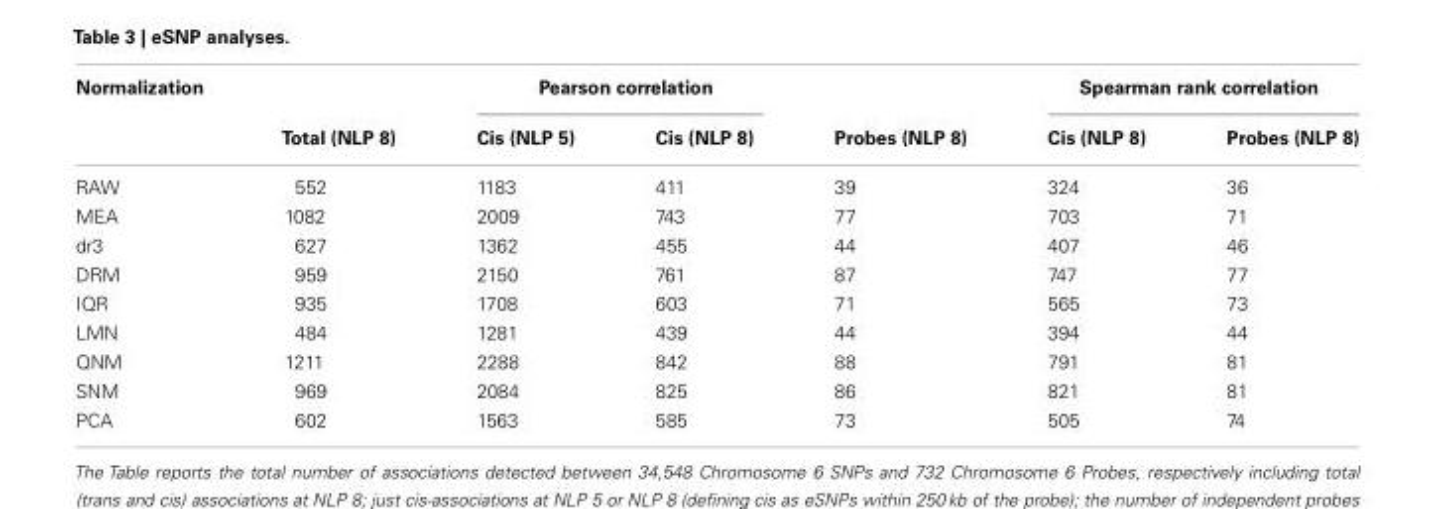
<table><thead><tr><td rowspan="2">Normalization</td><td colspan="4">Pearson correlation</td><td colspan="2">Spearman rank correlation</td></tr><tr><td>Total (NLP 8)</td><td>Cis (NLP 5)</td><td>Cis (NLP 8)</td><td>Probes (NLP 8)</td><td>Cis (NLP 8)</td><td>Probes (NLP 8)</td></tr></thead><tbody><tr><td>RAW</td><td>552</td><td>1183</td><td>411</td><td>39</td><td>324</td><td>36</td></tr><tr><td>MEA</td><td>1082</td><td>2009</td><td>743</td><td>77</td><td>703</td><td>71</td></tr><tr><td>dr3</td><td>627</td><td>1362</td><td>455</td><td>44</td><td>407</td><td>46</td></tr><tr><td>DRM</td><td>959</td><td>2150</td><td>761</td><td>87</td><td>747</td><td>77</td></tr><tr><td>IQR</td><td>935</td><td>1708</td><td>603</td><td>71</td><td>565</td><td>73</td></tr><tr><td>LMN</td><td>484</td><td>1281</td><td>439</td><td>44</td><td>394</td><td>44</td></tr><tr><td>QNM</td><td>1211</td><td>2288</td><td>842</td><td>88</td><td>791</td><td>81</td></tr><tr><td>SNM</td><td>969</td><td>2084</td><td>825</td><td>86</td><td>821</td><td>81</td></tr><tr><td>PCA</td><td>602</td><td>1563</td><td>585</td><td>73</td><td>505</td><td>74</td></tr></tbody></table>